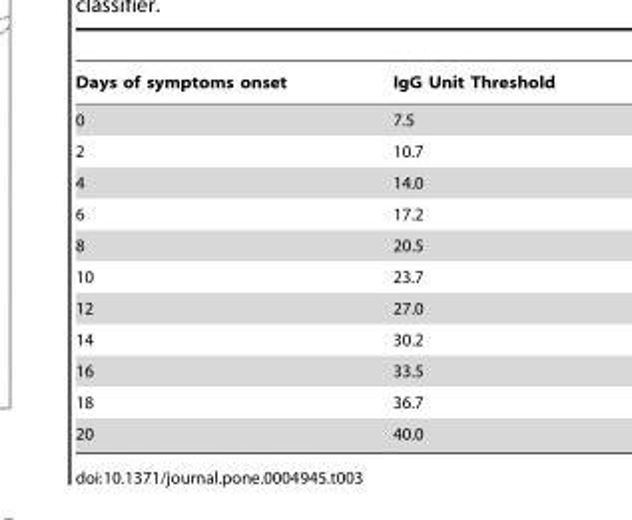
<table><thead><tr><td>Days of symptoms onset</td><td>IgG Unit Threshold</td></tr></thead><tbody><tr><td>0</td><td>7.5</td></tr><tr><td>2</td><td>10.7</td></tr><tr><td>4</td><td>14.0</td></tr><tr><td>6</td><td>17.2</td></tr><tr><td>8</td><td>20.5</td></tr><tr><td>10</td><td>23.7</td></tr><tr><td>12</td><td>27.0</td></tr><tr><td>14</td><td>30.2</td></tr><tr><td>16</td><td>33.5</td></tr><tr><td>18</td><td>36.7</td></tr><tr><td>20</td><td>40.0</td></tr></tbody></table>